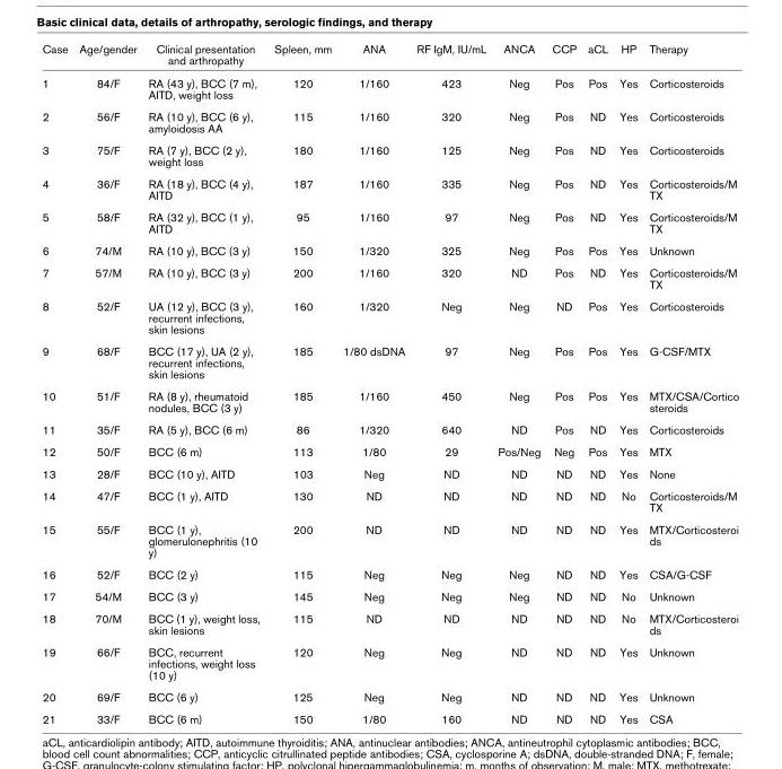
<table><thead><tr><td>Case</td><td>Age/gender</td><td>Clinical presentation and arthropathy</td><td>Spleen, mm</td><td>ANA</td><td>RF IgM, IU/mL</td><td>ANCA</td><td>CCP</td><td>aCL</td><td>HP</td><td>Therapy</td></tr></thead><tbody><tr><td>1</td><td>84/F</td><td>RA (43 y), BCC (7 m), AITD, weight loss</td><td>120</td><td>1/160</td><td>423</td><td>Neg</td><td>Pos</td><td>Pos</td><td>Yes</td><td>Corticosteroids</td></tr><tr><td>2</td><td>56/F</td><td>RA (10 y), BCC (6 y), amyloidosis AA</td><td>115</td><td>1/160</td><td>320</td><td>Neg</td><td>Pos</td><td>ND</td><td>Yes</td><td>Corticosteroids</td></tr><tr><td>3</td><td>75/F</td><td>RA (7 y), BCC (2 y), weight loss</td><td>180</td><td>1/160</td><td>125</td><td>Neg</td><td>Pos</td><td>ND</td><td>Yes</td><td>Corticosteroids</td></tr><tr><td>4</td><td>36/F</td><td>RA (18 y), BCC (4 y), AITD</td><td>187</td><td>1/160</td><td>335</td><td>Neg</td><td>Pos</td><td>ND</td><td>Yes</td><td>Corticosteroids/M TX</td></tr><tr><td>5</td><td>58/F</td><td>RA (32 y), BCC (1 y), AITD</td><td>95</td><td>1/160</td><td>97</td><td>Neg</td><td>Pos</td><td>ND</td><td>Yes</td><td>Corticosteroids/M TX</td></tr><tr><td>6</td><td>74/M</td><td>RA (10 y), BCC (3 y)</td><td>150</td><td>1/320</td><td>325</td><td>Neg</td><td>Pos</td><td>Pos</td><td>Yes</td><td>Unknown</td></tr><tr><td>7</td><td>57/M</td><td>RA (10 y), BCC (3 y)</td><td>200</td><td>1/160</td><td>320</td><td>ND</td><td>Pos</td><td>ND</td><td>Yes</td><td>Corticosteroids/M TX</td></tr><tr><td>8</td><td>52/F</td><td>UA (12 y), BCC (3 y), recurrent infections, skin lesions</td><td>160</td><td>1/320</td><td>Neg</td><td>Neg</td><td>ND</td><td>Pos</td><td>Yes</td><td>Corticosteroids</td></tr><tr><td>9</td><td>68/F</td><td>BCC (17 y), UA (2 y), recurrent infections, skin lesions</td><td>185</td><td>1/80 dsDNA</td><td>97</td><td>Neg</td><td>Pos</td><td>Pos</td><td>Yes</td><td>G-CSF/MTX</td></tr><tr><td>10</td><td>51/F</td><td>RA (8 y), rheumatoid nodules, BCC (3 y)</td><td>185</td><td>1/160</td><td>450</td><td>Neg</td><td>Pos</td><td>Pos</td><td>Yes</td><td>MTX/CSA/Cortico steroids</td></tr><tr><td>11</td><td>35/F</td><td>RA (5 y), BCC (6 m)</td><td>86</td><td>1/320</td><td>640</td><td>ND</td><td>Pos</td><td>ND</td><td>Yes</td><td>Corticosteroids</td></tr><tr><td>12</td><td>50/F</td><td>BCC (6 m)</td><td>113</td><td>1/80</td><td>29</td><td>Pos/Neg</td><td>Neg</td><td>Pos</td><td>Yes</td><td>MTX</td></tr><tr><td>13</td><td>28/F</td><td>BCC (10 y), AITD</td><td>103</td><td>Neg</td><td>ND</td><td>ND</td><td>ND</td><td>ND</td><td>Yes</td><td>None</td></tr><tr><td>14</td><td>47/F</td><td>BCC (1 y), AITD</td><td>130</td><td>ND</td><td>ND</td><td>ND</td><td>ND</td><td>ND</td><td>No</td><td>Corticosteroids/M TX</td></tr><tr><td>15</td><td>55/F</td><td>BCC (1 y), glomerulonephritis (10 y)</td><td>200</td><td>ND</td><td>ND</td><td>ND</td><td>ND</td><td>ND</td><td>Yes</td><td>MTX/Corticosteroi ds</td></tr><tr><td>16</td><td>52/F</td><td>BCC (2 y)</td><td>115</td><td>Neg</td><td>Neg</td><td>Neg</td><td>ND</td><td>ND</td><td>Yes</td><td>CSA/G-CSF</td></tr><tr><td>17</td><td>54/M</td><td>BCC (3 y)</td><td>145</td><td>Neg</td><td>Neg</td><td>Neg</td><td>ND</td><td>ND</td><td>No</td><td>Unknown</td></tr><tr><td>18</td><td>70/M</td><td>BCC (1 y), weight loss, skin lesions</td><td>115</td><td>ND</td><td>ND</td><td>ND</td><td>ND</td><td>ND</td><td>No</td><td>MTX/Corticosteroi ds</td></tr><tr><td>19</td><td>66/F</td><td>BCC, recurrent infections, weight loss (10 y)</td><td>120</td><td>Neg</td><td>Neg</td><td>ND</td><td>ND</td><td>ND</td><td>Yes</td><td>Unknown</td></tr><tr><td>20</td><td>69/F</td><td>BCC (6 y)</td><td>125</td><td>Neg</td><td>Neg</td><td>ND</td><td>ND</td><td>ND</td><td>Yes</td><td>Unknown</td></tr><tr><td>21</td><td>33/F</td><td>BCC (6 m)</td><td>150</td><td>1/80</td><td>160</td><td>ND</td><td>ND</td><td>ND</td><td>Yes</td><td>CSA</td></tr></tbody></table>